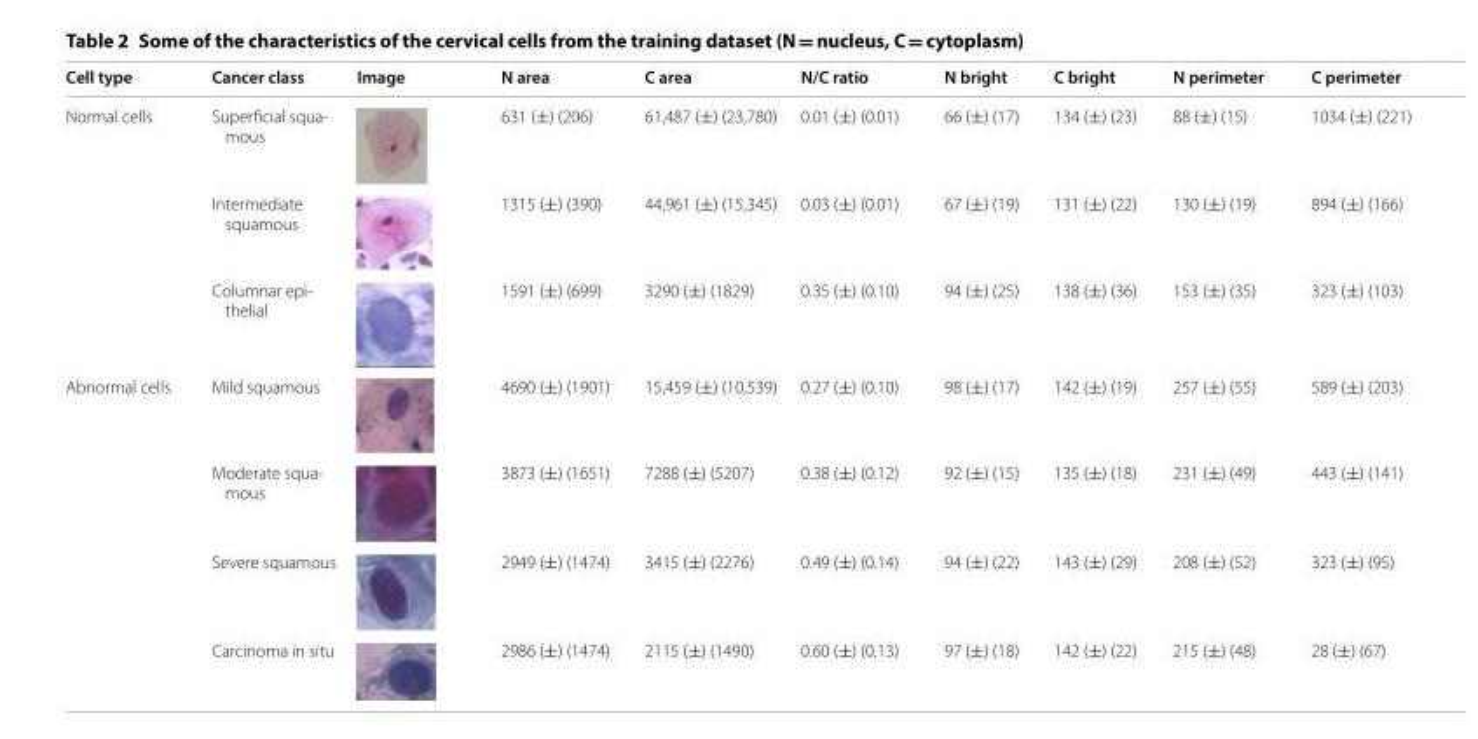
<table><thead><tr><td>Cell type</td><td>Cancer class</td><td>Image</td><td>N area</td><td>C area</td><td>N/C ratio</td><td>N bright</td><td>C bright</td><td>N perimeter</td><td>C perimeter</td></tr></thead><tbody><tr><td rowspan="3">Normal cells</td><td>Superficial squa‑ mous</td><td></td><td>631 (±) (206)</td><td>61,487 (±) (23,780)</td><td>0.01 (±) (0.01)</td><td>66 (±) (17)</td><td>134 (±) (23)</td><td>88 (±) (15)</td><td>1034 (±) (221)</td></tr><tr><td>Intermediate squamous</td><td></td><td>1315 (±) (390)</td><td>44,961 (±) (15,345)</td><td>0.03 (±) (0.01)</td><td>67 (±) (19)</td><td>131 (±) (22)</td><td>130 (±) (19)</td><td>894 (±) (166)</td></tr><tr><td>Columnar epi‑ thelial</td><td></td><td>1591 (±) (699)</td><td>3290 (±) (1829)</td><td>0.35 (±) (0.10)</td><td>94 (±) (25)</td><td>138 (±) (36)</td><td>153 (±) (35)</td><td>323 (±) (103)</td></tr><tr><td rowspan="4">Abnormal cells</td><td>Mild squamous</td><td></td><td>4690 (±) (1901)</td><td>15,459 (±) (10,539)</td><td>0.27 (±) (0.10)</td><td>98 (±) (17)</td><td>142 (±) (19)</td><td>257 (±) (55)</td><td>589 (±) (203)</td></tr><tr><td>Moderate squa‑ mous</td><td></td><td>3873 (±) (1651)</td><td>7288 (±) (5207)</td><td>0.38 (±) (0.12)</td><td>92 (±) (15)</td><td>135 (±) (18)</td><td>231 (±) (49)</td><td>443 (±) (141)</td></tr><tr><td>Severe squamous</td><td></td><td>2949 (±) (1474)</td><td>3415 (±) (2276)</td><td>0.49 (±) (0.14)</td><td>94 (±) (22)</td><td>143 (±) (29)</td><td>208 (±) (52)</td><td>323 (±) (95)</td></tr><tr><td>Carcinoma in situ</td><td></td><td>2986 (±) (1474)</td><td>2115 (±) (1490)</td><td>0.60 (±) (0.13)</td><td>97 (±) (18)</td><td>142 (±) (22)</td><td>215 (±) (48)</td><td>28 (±) (67)</td></tr></tbody></table>